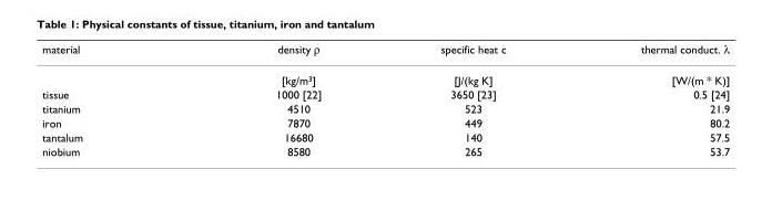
<table><thead><tr><td>material</td><td>density ρ</td><td>specific heat c</td><td>thermal conduct. λ</td></tr></thead><tbody><tr><td></td><td>[kg/m<sup>3</sup>]</td><td>[J/(kg K]</td><td>[W/(m * K)]</td></tr><tr><td>tissue</td><td>1000 [22]</td><td>3650 [23]</td><td>0.5 [24]</td></tr><tr><td>titanium</td><td>4510</td><td>523</td><td>21.9</td></tr><tr><td>iron</td><td>7870</td><td>449</td><td>80.2</td></tr><tr><td>tantalum</td><td>16680</td><td>140</td><td>57.5</td></tr><tr><td>niobium</td><td>8580</td><td>265</td><td>53.7</td></tr></tbody></table>